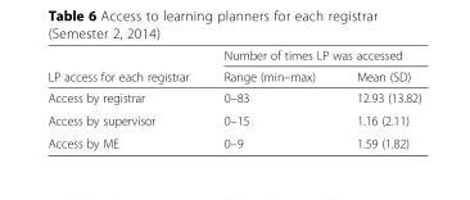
<table><thead><tr><td rowspan="2">LP access for each registrar</td><td colspan="2">Number of times LP was accessed</td></tr><tr><td>Range (min–max)</td><td>Mean (SD)</td></tr></thead><tbody><tr><td>Access by registrar</td><td>0–83</td><td>12.93 (13.82)</td></tr><tr><td>Access by supervisor</td><td>0–15</td><td>1.16 (2.11)</td></tr><tr><td>Access by ME</td><td>0–9</td><td>1.59 (1.82)</td></tr></tbody></table>